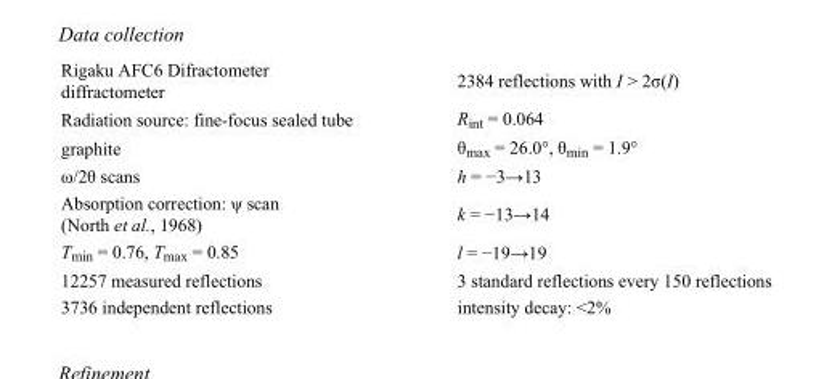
<table><tbody><tr><td>Rigaku AFC6 Difractometer diffractometer</td><td>2384 reflections with I &gt; 2σ(I)</td></tr><tr><td>Radiation source: fine-focus sealed tube</td><td>R<sub>int</sub> = 0.064</td></tr><tr><td>graphite</td><td>θ<sub>max</sub> = 26.0°, θ<sub>min</sub> = 1.9°</td></tr><tr><td>ω/2θ scans</td><td>h = −3→13</td></tr><tr><td>Absorption correction: ψ scan (North et al., 1968)</td><td>k = −13→14</td></tr><tr><td>T<sub>min</sub> = 0.76, T<sub>max</sub> = 0.85</td><td>l = −19→19</td></tr><tr><td>12257 measured reflections</td><td>3 standard reflections every 150 reflections</td></tr><tr><td>3736 independent reflections</td><td>intensity decay: &lt;2%</td></tr></tbody></table>